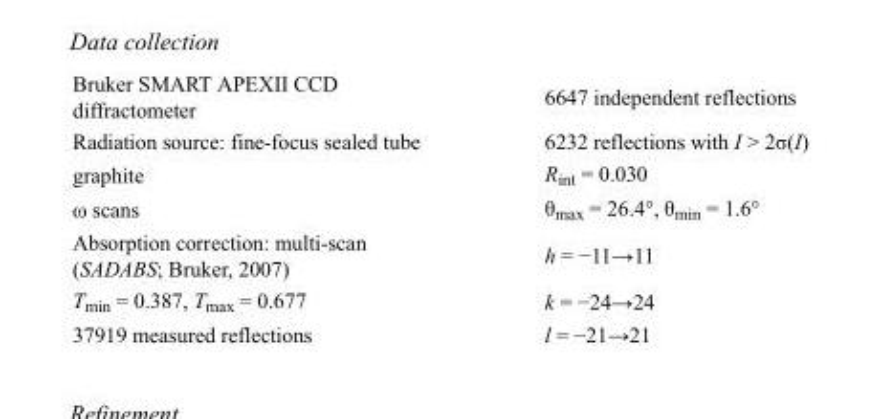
<table><tbody><tr><td>Bruker SMART APEXII CCD diffractometer</td><td>6647 independent reflections</td></tr><tr><td>Radiation source: fine-focus sealed tube</td><td>6232 reflections with I &gt; 2σ(I)</td></tr><tr><td>graphite</td><td>R<sub>int</sub> = 0.030</td></tr><tr><td>ω scans</td><td>θ<sub>max</sub> = 26.4°, θ<sub>min</sub> = 1.6°</td></tr><tr><td>Absorption correction: multi-scan (SADABS; Bruker, 2007)</td><td>h = −11→11</td></tr><tr><td>T<sub>min</sub> = 0.387, T<sub>max</sub> = 0.677</td><td>k = −24→24</td></tr><tr><td>37919 measured reflections</td><td>l = −21→21</td></tr></tbody></table>